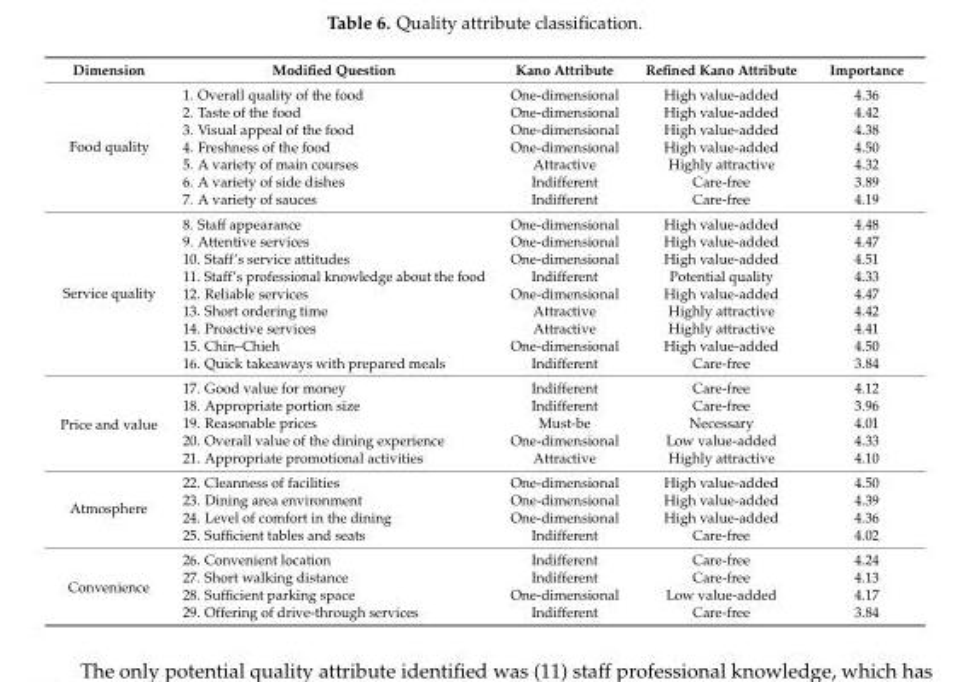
<table><thead><tr><td>Dimension</td><td>Modified Question</td><td>Kano Attribute</td><td>Refined Kano Attribute</td><td>Importance</td></tr></thead><tbody><tr><td rowspan="7">Food quality</td><td>1. Overall quality of the food</td><td>One-dimensional</td><td>High value-added</td><td>4.36</td></tr><tr><td>2. Taste of the food</td><td>One-dimensional</td><td>High value-added</td><td>4.42</td></tr><tr><td>3. Visual appeal of the food</td><td>One-dimensional</td><td>High value-added</td><td>4.38</td></tr><tr><td>4. Freshness of the food</td><td>One-dimensional</td><td>High value-added</td><td>4.50</td></tr><tr><td>5. A variety of main courses</td><td>Attractive</td><td>Highly attractive</td><td>4.32</td></tr><tr><td>6. A variety of side dishes</td><td>Indifferent</td><td>Care-free</td><td>3.89</td></tr><tr><td>7. A variety of sauces</td><td>Indifferent</td><td>Care-free</td><td>4.19</td></tr><tr><td rowspan="9">Service quality</td><td>8. Staff appearance</td><td>One-dimensional</td><td>High value-added</td><td>4.48</td></tr><tr><td>9. Attentive services</td><td>One-dimensional</td><td>High value-added</td><td>4.47</td></tr><tr><td>10. Staff’s service attitudes</td><td>One-dimensional</td><td>High value-added</td><td>4.51</td></tr><tr><td>11. Staff’s professional knowledge about the food</td><td>Indifferent</td><td>Potential quality</td><td>4.33</td></tr><tr><td>12. Reliable services</td><td>One-dimensional</td><td>High value-added</td><td>4.47</td></tr><tr><td>13. Short ordering time</td><td>Attractive</td><td>Highly attractive</td><td>4.42</td></tr><tr><td>14. Proactive services</td><td>Attractive</td><td>Highly attractive</td><td>4.41</td></tr><tr><td>15. Chin–Chieh</td><td>One-dimensional</td><td>High value-added</td><td>4.50</td></tr><tr><td>16. Quick takeaways with prepared meals</td><td>Indifferent</td><td>Care-free</td><td>3.84</td></tr><tr><td rowspan="5">Price and value</td><td>17. Good value for money</td><td>Indifferent</td><td>Care-free</td><td>4.12</td></tr><tr><td>18. Appropriate portion size</td><td>Indifferent</td><td>Care-free</td><td>3.96</td></tr><tr><td>19. Reasonable prices</td><td>Must-be</td><td>Necessary</td><td>4.01</td></tr><tr><td>20. Overall value of the dining experience</td><td>One-dimensional</td><td>Low value-added</td><td>4.33</td></tr><tr><td>21. Appropriate promotional activities</td><td>Attractive</td><td>Highly attractive</td><td>4.10</td></tr><tr><td rowspan="4">Atmosphere</td><td>22. Cleanness of facilities</td><td>One-dimensional</td><td>High value-added</td><td>4.50</td></tr><tr><td>23. Dining area environment</td><td>One-dimensional</td><td>High value-added</td><td>4.39</td></tr><tr><td>24. Level of comfort in the dining</td><td>One-dimensional</td><td>High value-added</td><td>4.36</td></tr><tr><td>25. Sufficient tables and seats</td><td>Indifferent</td><td>Care-free</td><td>4.02</td></tr><tr><td rowspan="4">Convenience</td><td>26. Convenient location</td><td>Indifferent</td><td>Care-free</td><td>4.24</td></tr><tr><td>27. Short walking distance</td><td>Indifferent</td><td>Care-free</td><td>4.13</td></tr><tr><td>28. Sufficient parking space</td><td>One-dimensional</td><td>Low value-added</td><td>4.17</td></tr><tr><td>29. Offering of drive-through services</td><td>Indifferent</td><td>Care-free</td><td>3.84</td></tr></tbody></table>